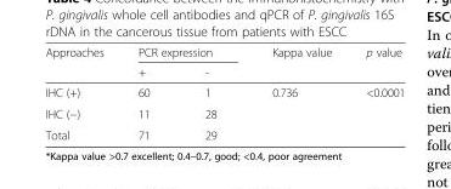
<table><thead><tr><td rowspan="2">Approaches</td><td colspan="2">PCR expression</td><td rowspan="2">Kappa value</td><td rowspan="2">p value</td></tr><tr><td>+</td><td>-</td></tr></thead><tbody><tr><td>IHC (+)</td><td>60</td><td>1</td><td rowspan="3">0.736</td><td rowspan="3">&lt;0.0001</td></tr><tr><td>IHC (−)</td><td>11</td><td>28</td></tr><tr><td>Total</td><td>71</td><td>29</td></tr></tbody></table>